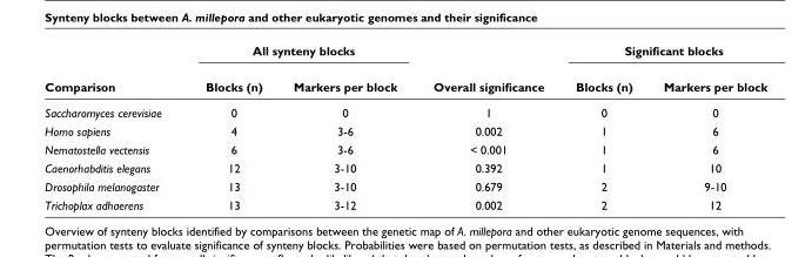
<table><thead><tr><td rowspan="2">Comparison</td><td colspan="2">All synteny blocks</td><td rowspan="2">Overall significance</td><td colspan="2">Significant blocks</td></tr><tr><td>Blocks (n)</td><td>Markers per block</td><td>Blocks (n)</td><td>Markers per block</td></tr></thead><tbody><tr><td>Saccharomyces cerevisiae</td><td>0</td><td>0</td><td>1</td><td>0</td><td>0</td></tr><tr><td>Homo sapiens</td><td>4</td><td>3-6</td><td>0.002</td><td>1</td><td>6</td></tr><tr><td>Nematostella vectensis</td><td>6</td><td>3-6</td><td>&lt; 0.001</td><td>1</td><td>6</td></tr><tr><td>Caenorhabditis elegans</td><td>12</td><td>3-10</td><td>0.392</td><td>1</td><td>10</td></tr><tr><td>Drosophila melanogaster</td><td>13</td><td>3-10</td><td>0.679</td><td>2</td><td>9-10</td></tr><tr><td>Trichoplax adhaerens</td><td>13</td><td>3-12</td><td>0.002</td><td>2</td><td>12</td></tr></tbody></table>